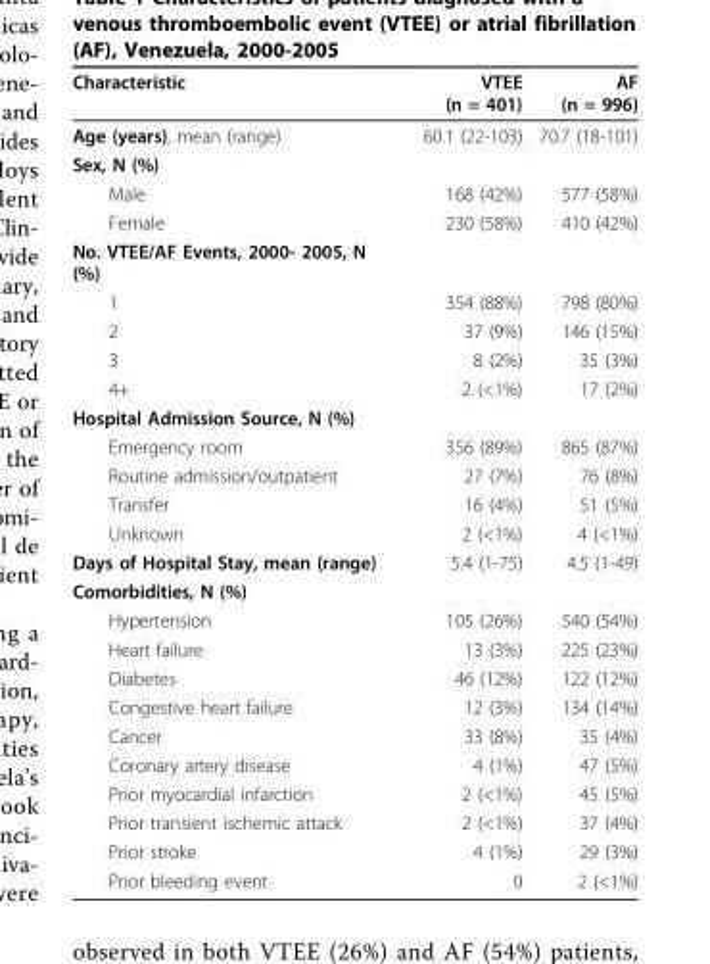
<table><thead><tr><td>Characteristic</td><td>VTEE (n = 401)</td><td>AF (n = 996)</td></tr></thead><tbody><tr><td>Age (years), mean (range)</td><td>60.1 (22-103)</td><td>70.7 (18-101)</td></tr><tr><td colspan="3">Sex, N (%)</td></tr><tr><td>Male</td><td>168 (42%)</td><td>577 (58%)</td></tr><tr><td>Female</td><td>230 (58%)</td><td>410 (42%)</td></tr><tr><td colspan="3">No. VTEE/AF Events, 2000- 2005, N (%)</td></tr><tr><td>1</td><td>354 (88%)</td><td>798 (80%)</td></tr><tr><td>2</td><td>37 (9%)</td><td>146 (15%)</td></tr><tr><td>3</td><td>8 (2%)</td><td>35 (3%)</td></tr><tr><td>4+</td><td>2 (&lt;1%)</td><td>17 (2%)</td></tr><tr><td colspan="3">Hospital Admission Source, N (%)</td></tr><tr><td>Emergency room</td><td>356 (89%)</td><td>865 (87%)</td></tr><tr><td>Routine admission/outpatient</td><td>27 (7%)</td><td>76 (8%)</td></tr><tr><td>Transfer</td><td>16 (4%)</td><td>51 (5%)</td></tr><tr><td>Unknown</td><td>2 (&lt;1%)</td><td>4 (&lt;1%)</td></tr><tr><td>Days of Hospital Stay, mean (range)</td><td>5.4 (1-75)</td><td>4.5 (1-49)</td></tr><tr><td colspan="3">Comorbidities, N (%)</td></tr><tr><td>Hypertension</td><td>105 (26%)</td><td>540 (54%)</td></tr><tr><td>Heart failure</td><td>13 (3%)</td><td>225 (23%)</td></tr><tr><td>Diabetes</td><td>46 (12%)</td><td>122 (12%)</td></tr><tr><td>Congestive heart failure</td><td>12 (3%)</td><td>134 (14%)</td></tr><tr><td>Cancer</td><td>33 (8%)</td><td>35 (4%)</td></tr><tr><td>Coronary artery disease</td><td>4 (1%)</td><td>47 (5%)</td></tr><tr><td>Prior myocardial infarction</td><td>2 (&lt;1%)</td><td>45 (5%)</td></tr><tr><td>Prior transient ischemic attack</td><td>2 (&lt;1%)</td><td>37 (4%)</td></tr><tr><td>Prior stroke</td><td>4 (1%)</td><td>29 (3%)</td></tr><tr><td>Prior bleeding event</td><td>0</td><td>2 (&lt;1%)</td></tr></tbody></table>